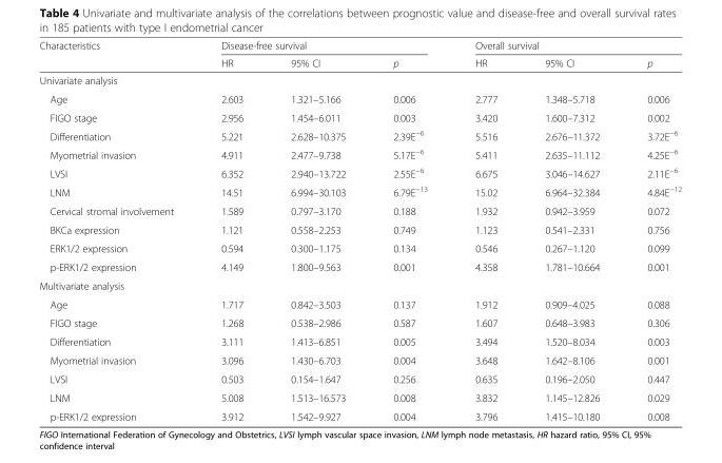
<table><thead><tr><td rowspan="2">Characteristics</td><td colspan="3">Disease-free survival</td><td colspan="3">Overall survival</td></tr><tr><td>HR</td><td>95% CI</td><td>p</td><td>HR</td><td>95% CI</td><td>p</td></tr></thead><tbody><tr><td colspan="7">Univariate analysis</td></tr><tr><td>Age</td><td>2.603</td><td>1.321–5.166</td><td>0.006</td><td>2.777</td><td>1.348–5.718</td><td>0.006</td></tr><tr><td>FIGO stage</td><td>2.956</td><td>1.454–6.011</td><td>0.003</td><td>3.420</td><td>1.600–7.312</td><td>0.002</td></tr><tr><td>Differentiation</td><td>5.221</td><td>2.628–10.375</td><td>2.39E<sup>−6</sup></td><td>5.516</td><td>2.676–11.372</td><td>3.72E<sup>−6</sup></td></tr><tr><td>Myometrial invasion</td><td>4.911</td><td>2.477–9.738</td><td>5.17E<sup>−6</sup></td><td>5.411</td><td>2.635–11.112</td><td>4.25E<sup>−6</sup></td></tr><tr><td>LVSI</td><td>6.352</td><td>2.940–13.722</td><td>2.55E<sup>−6</sup></td><td>6.675</td><td>3.046–14.627</td><td>2.11E<sup>−6</sup></td></tr><tr><td>LNM</td><td>14.51</td><td>6.994–30.103</td><td>6.79E<sup>−13</sup></td><td>15.02</td><td>6.964–32.384</td><td>4.84E<sup>−12</sup></td></tr><tr><td>Cervical stromal involvement</td><td>1.589</td><td>0.797–3.170</td><td>0.188</td><td>1.932</td><td>0.942–3.959</td><td>0.072</td></tr><tr><td>BKCa expression</td><td>1.121</td><td>0.558–2.253</td><td>0.749</td><td>1.123</td><td>0.541–2.331</td><td>0.756</td></tr><tr><td>ERK1/2 expression</td><td>0.594</td><td>0.300–1.175</td><td>0.134</td><td>0.546</td><td>0.267–1.120</td><td>0.099</td></tr><tr><td>p-ERK1/2 expression</td><td>4.149</td><td>1.800–9.563</td><td>0.001</td><td>4.358</td><td>1.781–10.664</td><td>0.001</td></tr><tr><td colspan="7">Multivariate analysis</td></tr><tr><td>Age</td><td>1.717</td><td>0.842–3.503</td><td>0.137</td><td>1.912</td><td>0.909–4.025</td><td>0.088</td></tr><tr><td>FIGO stage</td><td>1.268</td><td>0.538–2.986</td><td>0.587</td><td>1.607</td><td>0.648–3.983</td><td>0.306</td></tr><tr><td>Differentiation</td><td>3.111</td><td>1.413–6.851</td><td>0.005</td><td>3.494</td><td>1.520–8.034</td><td>0.003</td></tr><tr><td>Myometrial invasion</td><td>3.096</td><td>1.430–6.703</td><td>0.004</td><td>3.648</td><td>1.642–8.106</td><td>0.001</td></tr><tr><td>LVSI</td><td>0.503</td><td>0.154–1.647</td><td>0.256</td><td>0.635</td><td>0.196–2.050</td><td>0.447</td></tr><tr><td>LNM</td><td>5.008</td><td>1.513–16.573</td><td>0.008</td><td>3.832</td><td>1.145–12.826</td><td>0.029</td></tr><tr><td>p-ERK1/2 expression</td><td>3.912</td><td>1.542–9.927</td><td>0.004</td><td>3.796</td><td>1.415–10.180</td><td>0.008</td></tr></tbody></table>